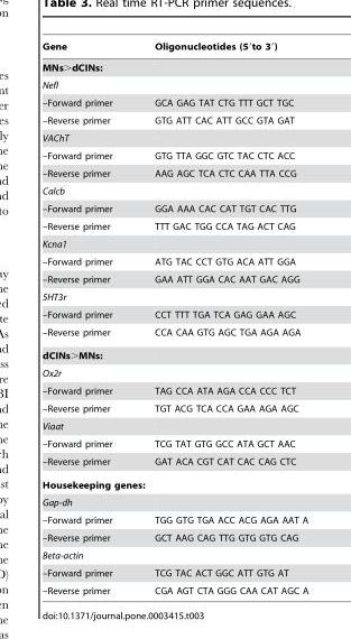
<table><thead><tr><td>Gene</td><td>Oligonucleotides (5′to 3′)</td></tr></thead><tbody><tr><td colspan="2">MNs&gt;dCINs:</td></tr><tr><td colspan="2">Nefl</td></tr><tr><td>–Forward primer</td><td>GCA GAG TAT CTG TTT GCT TGC</td></tr><tr><td>–Reverse primer</td><td>GTG ATT CAC ATT GCC GTA GAT</td></tr><tr><td colspan="2">VAChT</td></tr><tr><td>–Forward primer</td><td>GTG TTA GGC GTC TAC CTC ACC</td></tr><tr><td>–Reverse primer</td><td>AAG AGC TCA CTC CAA TTA CCG</td></tr><tr><td colspan="2">Calcb</td></tr><tr><td>–Forward primer</td><td>GGA AAA CAC CAT TGT CAC TTG</td></tr><tr><td>–Reverse primer</td><td>TTT GAC TGG CCA TAG ACT CAG</td></tr><tr><td colspan="2">Kcna1</td></tr><tr><td>–Forward primer</td><td>ATG TAC CCT GTG ACA ATT GGA</td></tr><tr><td>–Reverse primer</td><td>GAA ATT GGA CAC AAT GAC AGG</td></tr><tr><td colspan="2">5HT3r</td></tr><tr><td>–Forward primer</td><td>CCT TTT TGA TCA GAG GAA AGC</td></tr><tr><td>–Reverse primer</td><td>CCA CAA GTG AGC TGA AGA AGA</td></tr><tr><td colspan="2">dCINs&gt;MNs:</td></tr><tr><td colspan="2">Ox2r</td></tr><tr><td>–Forward primer</td><td>TAG CCA ATA AGA CCA CCC TCT</td></tr><tr><td>–Reverse primer</td><td>TGT ACG TCA CCA GAA AGA AGC</td></tr><tr><td colspan="2">Viaat</td></tr><tr><td>–Forward primer</td><td>TCG TAT GTG GCC ATA GCT AAC</td></tr><tr><td>–Reverse primer</td><td>GAT ACA CGT CAT CAC CAG CTC</td></tr><tr><td colspan="2">Housekeeping genes:</td></tr><tr><td colspan="2">Gap-dh</td></tr><tr><td>–Forward primer</td><td>TGG GTG TGA ACC ACG AGA AAT A</td></tr><tr><td>–Reverse primer</td><td>GCT AAG CAG TTG GTG GTG CAG</td></tr><tr><td colspan="2">Beta-actin</td></tr><tr><td>–Forward primer</td><td>TCG TAC ACT GGC ATT GTG AT</td></tr><tr><td>–Reverse primer</td><td>CGA AGT CTA GGG CAA CAT AGC A</td></tr></tbody></table>